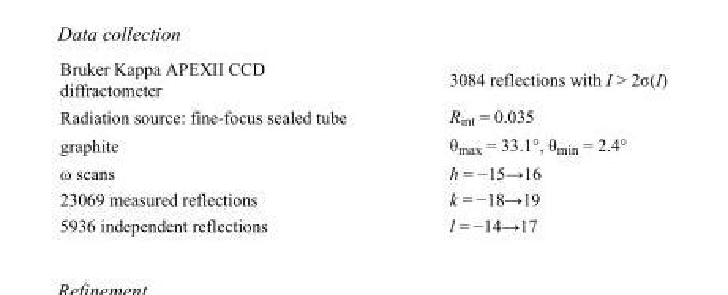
<table><tbody><tr><td>Bruker Kappa APEXII CCD diffractometer</td><td>3084 reflections with I &gt; 2σ(I)</td></tr><tr><td>Radiation source: fine-focus sealed tube</td><td>R<sub>int</sub> = 0.035</td></tr><tr><td>graphite</td><td>θ<sub>max</sub> = 33.1°, θ<sub>min</sub> = 2.4°</td></tr><tr><td>ω scans</td><td>h = −15→16</td></tr><tr><td>23069 measured reflections</td><td>k = −18→19</td></tr><tr><td>5936 independent reflections</td><td>l = −14→17</td></tr></tbody></table>